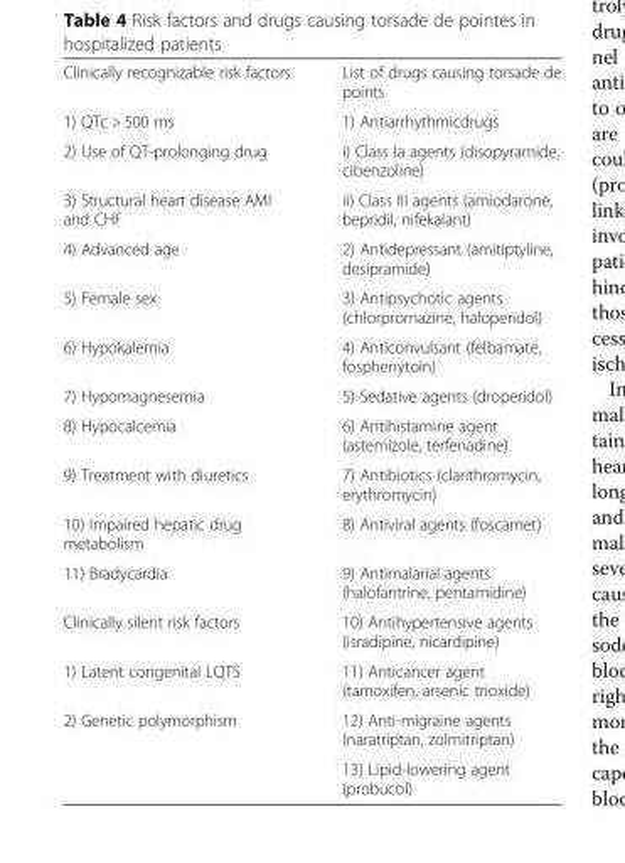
<table><tbody><tr><td>Clinically recognizable risk factors</td><td>List of drugs causing torsade de points</td></tr><tr><td>1) QTc &gt; 500 ms</td><td>1) Antiarrhythmicdrugs</td></tr><tr><td>2) Use of QT-prolonging drug</td><td>i) Class Ia agents (disopyramide, cibenzoline)</td></tr><tr><td>3) Structural heart disease AMI and CHF</td><td>ii) Class III agents (amiodarone, bepridil, nifekalant)</td></tr><tr><td>4) Advanced age</td><td>2) Antidepressant (amitiptyline, desipramide)</td></tr><tr><td>5) Female sex</td><td>3) Antipsychotic agents (chlorpromazine, haloperidol)</td></tr><tr><td>6) Hypokalemia</td><td>4) Anticonvulsant (felbamate, fosphenytoin)</td></tr><tr><td>7) Hypomagnesemia</td><td>5) Sedative agents (droperidol)</td></tr><tr><td>8) Hypocalcemia</td><td>6) Antihistamine agent (astemizole, terfenadine)</td></tr><tr><td>9) Treatment with diuretics</td><td>7) Antibiotics (clarithromycin, erythromycin)</td></tr><tr><td>10) Impaired hepatic drug metabolism</td><td>8) Antiviral agents (foscarnet)</td></tr><tr><td>11) Bradycardia</td><td>9) Antimalarial agents (halofantrine, pentamidine)</td></tr><tr><td>Clinically silent risk factors</td><td>10) Antihypertensive agents (isradipine, nicardipine)</td></tr><tr><td>1) Latent congenital LQTS</td><td>11) Anticancer agent (tamoxifen, arsenic trioxide)</td></tr><tr><td rowspan="2">2) Genetic polymorphism</td><td>12) Anti-migraine agents (naratriptan, zolmitriptan)</td></tr><tr><td>13) Lipid-lowering agent (probucol)</td></tr></tbody></table>